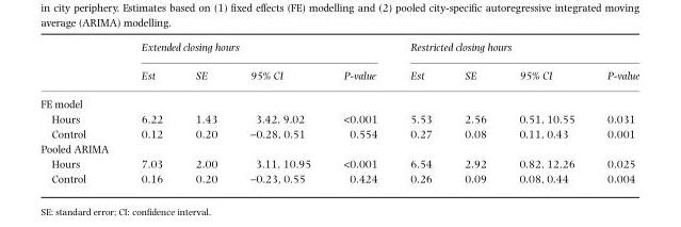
<table><thead><tr><td rowspan="2"></td><td colspan="4">Extended closing hours</td><td colspan="4">Restricted closing hours</td></tr><tr><td>Est</td><td>SE</td><td>95% CI</td><td>P-value</td><td>Est</td><td>SE</td><td>95% CI</td><td>P-value</td></tr></thead><tbody><tr><td colspan="9">FE model</td></tr><tr><td>Hours</td><td>6.22</td><td>1.43</td><td>3.42, 9.02</td><td>&lt;0.001</td><td>5.53</td><td>2.56</td><td>0.51, 10.55</td><td>0.031</td></tr><tr><td>Control</td><td>0.12</td><td>0.20</td><td>-0.28, 0.51</td><td>0.554</td><td>0.27</td><td>0.08</td><td>0.11, 0.43</td><td>0.001</td></tr><tr><td colspan="9">Pooled ARIMA</td></tr><tr><td>Hours</td><td>7.03</td><td>2.00</td><td>3.11, 10.95</td><td>&lt;0.001</td><td>6.54</td><td>2.92</td><td>0.82, 12.26</td><td>0.025</td></tr><tr><td>Control</td><td>0.16</td><td>0.20</td><td>-0.23, 0.55</td><td>0.424</td><td>0.26</td><td>0.09</td><td>0.08, 0.44</td><td>0.004</td></tr></tbody></table>